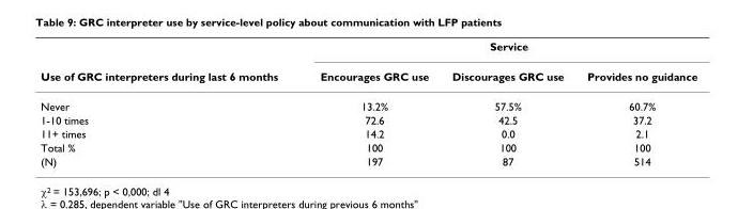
<table><thead><tr><td rowspan="2">Use of GRC interpreters during last 6 months</td><td colspan="3">Service</td></tr><tr><td>Encourages GRC use</td><td>Discourages GRC use</td><td>Provides no guidance</td></tr></thead><tbody><tr><td>Never</td><td>13.2%</td><td>57.5%</td><td>60.7%</td></tr><tr><td>1-10 times</td><td>72.6</td><td>42.5</td><td>37.2</td></tr><tr><td>11+ times</td><td>14.2</td><td>0.0</td><td>2.1</td></tr><tr><td>Total %</td><td>100</td><td>100</td><td>100</td></tr><tr><td>(N)</td><td>197</td><td>87</td><td>514</td></tr></tbody></table>